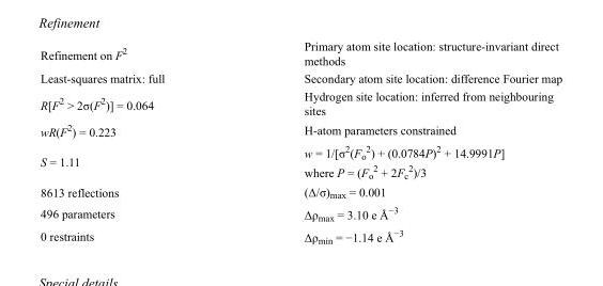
<table><tbody><tr><td>Refinement on F<sup>2</sup></td><td>Primary atom site location: structure-invariant direct methods</td></tr><tr><td>Least-squares matrix: full</td><td>Secondary atom site location: difference Fourier map</td></tr><tr><td>R[F<sup>2</sup> &gt; 2σ(F<sup>2</sup>)] = 0.064</td><td>Hydrogen site location: inferred from neighbouring sites</td></tr><tr><td>wR(F<sup>2</sup>) = 0.223</td><td>H-atom parameters constrained</td></tr><tr><td>S = 1.11</td><td>w = 1/[σ<sup>2</sup>(F<sub>o</sub> <sup>2</sup>) + (0.0784P)<sup>2</sup> + 14.9991P] where P = (F<sub>o</sub> <sup>2</sup> + 2F<sub>c</sub> <sup>2</sup>)/3</td></tr><tr><td>8613 reflections</td><td>(Δ/σ)<sub>max</sub> = 0.001</td></tr><tr><td>496 parameters</td><td>Δρ<sub>max</sub> = 3.10 e Å<sup>−3</sup></td></tr><tr><td>0 restraints</td><td>Δρ<sub>min</sub> = −1.14 e Å<sup>−3</sup></td></tr></tbody></table>